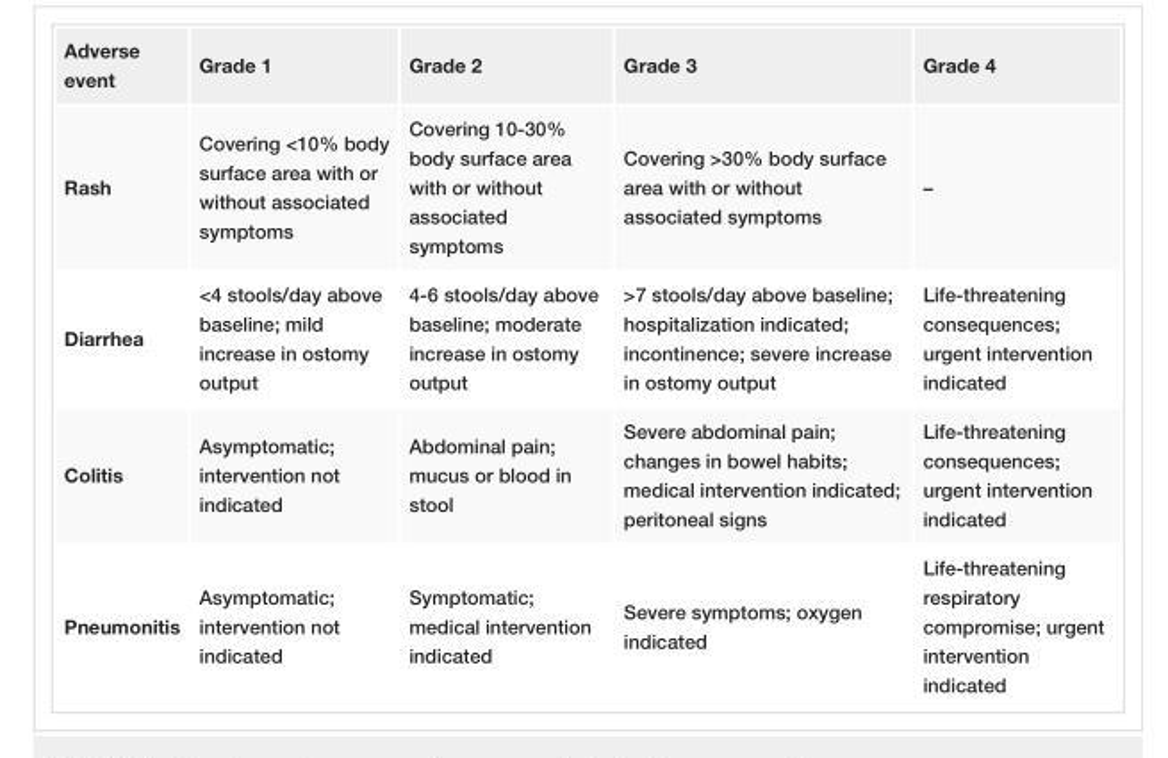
<table><tbody><tr><td>event</td><td>Grade 1</td><td>Grade 2</td><td>Grade 3</td><td>Grade 4</td></tr><tr><td>Rash</td><td>Covering &lt;10% body surface area with or without associated symptoms</td><td>Covering 10-30% body surface area with or without associated symptoms</td><td>Covering &gt;30% body surface area with or without associated symptoms</td><td>–</td></tr><tr><td>Diarrhea</td><td>&lt;4 stools/day above baseline; mild increase in ostomy output</td><td>4-6 stools/day above baseline; moderate increase in ostomy output</td><td>&gt;7 stools/day above baseline; hospitalization indicated; incontinence; severe increase in ostomy output</td><td>Life-threatening consequences; urgent intervention indicated</td></tr><tr><td>Colitis</td><td>Asymptomatic; intervention not indicated</td><td>Abdominal pain; mucus or blood in stool</td><td>Severe abdominal pain; changes in bowel habits; medical intervention indicated; peritoneal signs</td><td>Life-threatening consequences; urgent intervention indicated</td></tr><tr><td>Pneumonitis</td><td>Asymptomatic; intervention not indicated</td><td>Symptomatic; medical intervention indicated</td><td>Severe symptoms; oxygen indicated</td><td>Life-threatening respiratory compromise; urgent intervention indicated</td></tr></tbody></table>